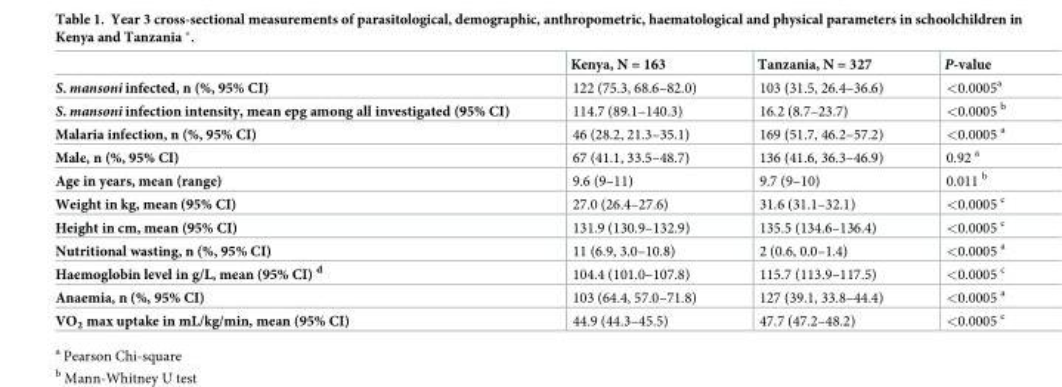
<table><thead><tr><td></td><td>Kenya, N = 163</td><td>Tanzania, N = 327</td><td>P-value</td></tr></thead><tbody><tr><td>S. mansoni infected, n (%, 95% CI)</td><td>122 (75.3, 68.6–82.0)</td><td>103 (31.5, 26.4–36.6)</td><td>&lt;0.0005<sup>a</sup></td></tr><tr><td>S. mansoni infection intensity, mean epg among all investigated (95% CI)</td><td>114.7 (89.1–140.3)</td><td>16.2 (8.7–23.7)</td><td>&lt;0.0005 <sup>b</sup></td></tr><tr><td>Malaria infection, n (%, 95% CI)</td><td>46 (28.2, 21.3–35.1)</td><td>169 (51.7, 46.2–57.2)</td><td>&lt;0.0005 <sup>a</sup></td></tr><tr><td>Male, n (%, 95% CI)</td><td>67 (41.1, 33.5–48.7)</td><td>136 (41.6, 36.3–46.9)</td><td>0.92 <sup>a</sup></td></tr><tr><td>Age in years, mean (range)</td><td>9.6 (9–11)</td><td>9.7 (9–10)</td><td>0.011 <sup>b</sup></td></tr><tr><td>Weight in kg, mean (95% CI)</td><td>27.0 (26.4–27.6)</td><td>31.6 (31.1–32.1)</td><td>&lt;0.0005 <sup>c</sup></td></tr><tr><td>Height in cm, mean (95% CI)</td><td>131.9 (130.9–132.9)</td><td>135.5 (134.6–136.4)</td><td>&lt;0.0005 <sup>c</sup></td></tr><tr><td>Nutritional wasting, n (%, 95% CI)</td><td>11 (6.9, 3.0–10.8)</td><td>2 (0.6, 0.0–1.4)</td><td>&lt;0.0005 <sup>a</sup></td></tr><tr><td>Haemoglobin level in g/L, mean (95% CI) <sup>d</sup></td><td>104.4 (101.0–107.8)</td><td>115.7 (113.9–117.5)</td><td>&lt;0.0005 <sup>c</sup></td></tr><tr><td>Anaemia, n (%, 95% CI)</td><td>103 (64.4, 57.0–71.8)</td><td>127 (39.1, 33.8–44.4)</td><td>&lt;0.0005 <sup>a</sup></td></tr><tr><td>VO<sub>2</sub> max uptake in mL/kg/min, mean (95% CI)</td><td>44.9 (44.3–45.5)</td><td>47.7 (47.2–48.2)</td><td>&lt;0.0005 <sup>c</sup></td></tr></tbody></table>